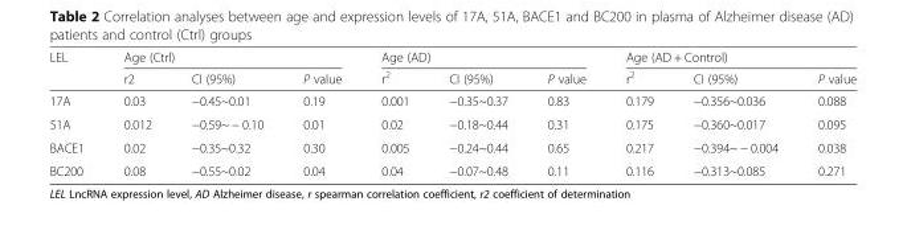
<table><thead><tr><td rowspan="2">LEL</td><td colspan="3">Age (Ctrl)</td><td colspan="3">Age (AD)</td><td colspan="3">Age (AD + Control)</td></tr><tr><td>r2</td><td>CI (95%)</td><td>P value</td><td>r<sup>2</sup></td><td>CI (95%)</td><td>P value</td><td>r<sup>2</sup></td><td>CI (95%)</td><td>P value</td></tr></thead><tbody><tr><td>17A</td><td>0.03</td><td>−0.45~0.01</td><td>0.19</td><td>0.001</td><td>−0.35~0.37</td><td>0.83</td><td>0.179</td><td>−0.356~0.036</td><td>0.088</td></tr><tr><td>51A</td><td>0.012</td><td>−0.59~ − 0.10</td><td>0.01</td><td>0.02</td><td>−0.18~0.44</td><td>0.31</td><td>0.175</td><td>−0.360~0.017</td><td>0.095</td></tr><tr><td>BACE1</td><td>0.02</td><td>−0.35~0.32</td><td>0.30</td><td>0.005</td><td>−0.24~0.44</td><td>0.65</td><td>0.217</td><td>−0.394~ − 0.004</td><td>0.038</td></tr><tr><td>BC200</td><td>0.08</td><td>−0.55~0.02</td><td>0.04</td><td>0.04</td><td>−0.07~0.48</td><td>0.11</td><td>0.116</td><td>−0.313~0.085</td><td>0.271</td></tr></tbody></table>